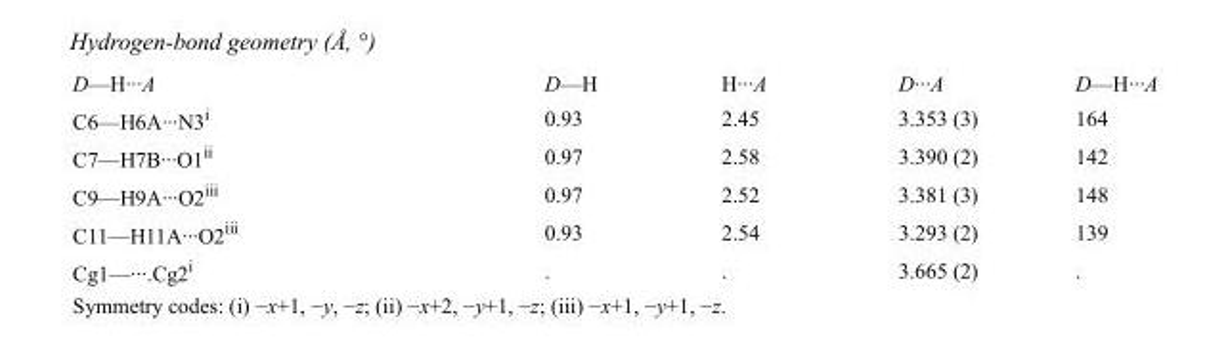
<table><tbody><tr><td>D—H···A</td><td>D—H</td><td>H···A</td><td>D···A</td><td>D—H···A</td></tr><tr><td>C6—H6A···N3<sup>i</sup></td><td>0.93</td><td>2.45</td><td>3.353 (3)</td><td>164</td></tr><tr><td>C7—H7B···O1<sup>ii</sup></td><td>0.97</td><td>2.58</td><td>3.390 (2)</td><td>142</td></tr><tr><td>C9—H9A···O2<sup>iii</sup></td><td>0.97</td><td>2.52</td><td>3.381 (3)</td><td>148</td></tr><tr><td>C11—H11A···O2<sup>iii</sup></td><td>0.93</td><td>2.54</td><td>3.293 (2)</td><td>139</td></tr><tr><td>Cg1—···.Cg2<sup>i</sup></td><td>.</td><td>.</td><td>3.665 (2)</td><td>.</td></tr></tbody></table>